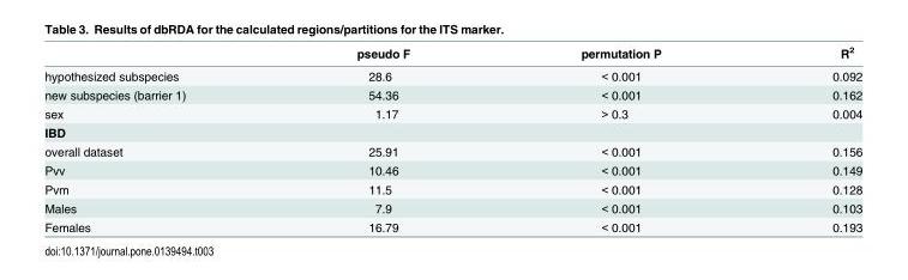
<table><thead><tr><td></td><td>pseudo F</td><td>permutation P</td><td>R<sup>2</sup></td></tr></thead><tbody><tr><td>hypothesized subspecies</td><td>28.6</td><td>&lt; 0.001</td><td>0.092</td></tr><tr><td>new subspecies (barrier 1)</td><td>54.36</td><td>&lt; 0.001</td><td>0.162</td></tr><tr><td>sex</td><td>1.17</td><td>&gt; 0.3</td><td>0.004</td></tr><tr><td colspan="4">IBD</td></tr><tr><td>overall dataset</td><td>25.91</td><td>&lt; 0.001</td><td>0.156</td></tr><tr><td>Pvv</td><td>10.46</td><td>&lt; 0.001</td><td>0.149</td></tr><tr><td>Pvm</td><td>11.5</td><td>&lt; 0.001</td><td>0.128</td></tr><tr><td>Males</td><td>7.9</td><td>&lt; 0.001</td><td>0.103</td></tr><tr><td>Females</td><td>16.79</td><td>&lt; 0.001</td><td>0.193</td></tr></tbody></table>